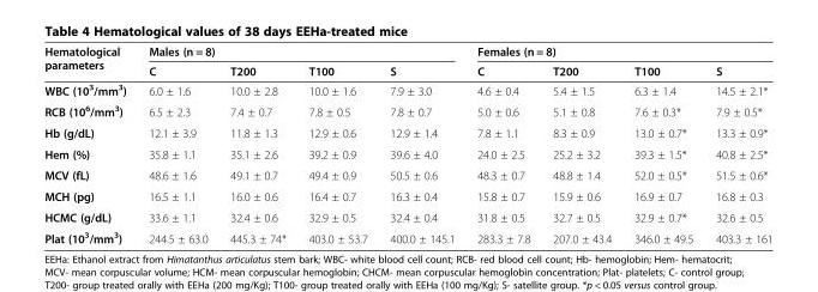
<table><thead><tr><td rowspan="2">Hematological parameters</td><td colspan="4">Males (n = 8)</td><td colspan="4">Females (n = 8)</td></tr><tr><td>C</td><td>T200</td><td>T100</td><td>S</td><td>C</td><td>T200</td><td>T100</td><td>S</td></tr></thead><tbody><tr><td>WBC (10<sup>3</sup>/mm<sup>3</sup>)</td><td>6.0 ± 1.6</td><td>10.0 ± 2.8</td><td>10.0 ± 1.6</td><td>7.9 ± 3.0</td><td>4.6 ± 0.4</td><td>5.4 ± 1.5</td><td>6.3 ± 1.4</td><td>14.5 ± 2.1*</td></tr><tr><td>RCB (10<sup>6</sup>/mm<sup>3</sup>)</td><td>6.5 ± 2.3</td><td>7.4 ± 0.7</td><td>7.8 ± 0.5</td><td>7.8 ± 0.7</td><td>5.0 ± 0.6</td><td>5.1 ± 0.8</td><td>7.6 ± 0.3*</td><td>7.9 ± 0.5*</td></tr><tr><td>Hb (g/dL)</td><td>12.1 ± 3.9</td><td>11.8 ± 1.3</td><td>12.9 ± 0.6</td><td>12.9 ± 1.4</td><td>7.8 ± 1.1</td><td>8.3 ± 0.9</td><td>13.0 ± 0.7*</td><td>13.3 ± 0.9*</td></tr><tr><td>Hem (%)</td><td>35.8 ± 1.1</td><td>35.1 ± 2.6</td><td>39.2 ± 0.9</td><td>39.6 ± 4.0</td><td>24.0 ± 2.5</td><td>25.2 ± 3.2</td><td>39.3 ± 1.5*</td><td>40.8 ± 2.5*</td></tr><tr><td>MCV (fL)</td><td>48.6 ± 1.6</td><td>49.1 ± 0.7</td><td>49.4 ± 0.9</td><td>50.5 ± 0.6</td><td>48.3 ± 0.7</td><td>48.8 ± 1.4</td><td>52.0 ± 0.5*</td><td>51.5 ± 0.6*</td></tr><tr><td>MCH (pg)</td><td>16.5 ± 1.1</td><td>16.0 ± 0.6</td><td>16.4 ± 0.7</td><td>16.3 ± 0.4</td><td>15.8 ± 0.7</td><td>15.9 ± 0.6</td><td>16.9 ± 0.7</td><td>16.8 ± 0.3</td></tr><tr><td>HCMC (g/dL)</td><td>33.6 ± 1.1</td><td>32.4 ± 0.6</td><td>32.9 ± 0.5</td><td>32.4 ± 0.4</td><td>31.8 ± 0.5</td><td>32.7 ± 0.5</td><td>32.9 ± 0.7*</td><td>32.6 ± 0.5</td></tr><tr><td>Plat (10<sup>3</sup>/mm<sup>3</sup>)</td><td>244.5 ± 63.0</td><td>445.3 ± 74*</td><td>403.0 ± 53.7</td><td>400.0 ± 145.1</td><td>283.3 ± 7.8</td><td>207.0 ± 43.4</td><td>346.0 ± 49.5</td><td>403.3 ± 161</td></tr></tbody></table>